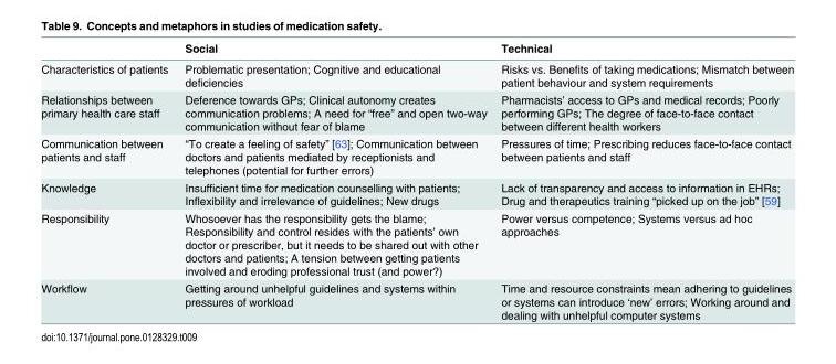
<table><thead><tr><td></td><td>Social</td><td>Technical</td></tr></thead><tbody><tr><td>Characteristics of patients</td><td>Problematic presentation; Cognitive and educational deficiencies</td><td>Risks vs. Benefits of taking medications; Mismatch between patient behaviour and system requirements</td></tr><tr><td>Relationships between primary health care staff</td><td>Deference towards GPs; Clinical autonomy creates communication problems; A need for “free” and open two-way communication without fear of blame</td><td>Pharmacists’ access to GPs and medical records; Poorly performing GPs; The degree of face-to-face contact between different health workers</td></tr><tr><td>Communication between patients and staff</td><td>“To create a feeling of safety” [63]; Communication between doctors and patients mediated by receptionists and telephones (potential for further errors)</td><td>Pressures of time; Prescribing reduces face-to-face contact between patients and staff</td></tr><tr><td>Knowledge</td><td>Insufficient time for medication counselling with patients; Inflexibility and irrelevance of guidelines; New drugs</td><td>Lack of transparency and access to information in EHRs; Drug and therapeutics training “picked up on the job” [59]</td></tr><tr><td>Responsibility</td><td>Whosoever has the responsibility gets the blame; Responsibility and control resides with the patients’ own doctor or prescriber, but it needs to be shared out with other doctors and patients; A tension between getting patients involved and eroding professional trust (and power?)</td><td>Power versus competence; Systems versus ad hoc approaches</td></tr><tr><td>Workflow</td><td>Getting around unhelpful guidelines and systems within pressures of workload</td><td>Time and resource constraints mean adhering to guidelines or systems can introduce ‘new’ errors; Working around and dealing with unhelpful computer systems</td></tr></tbody></table>